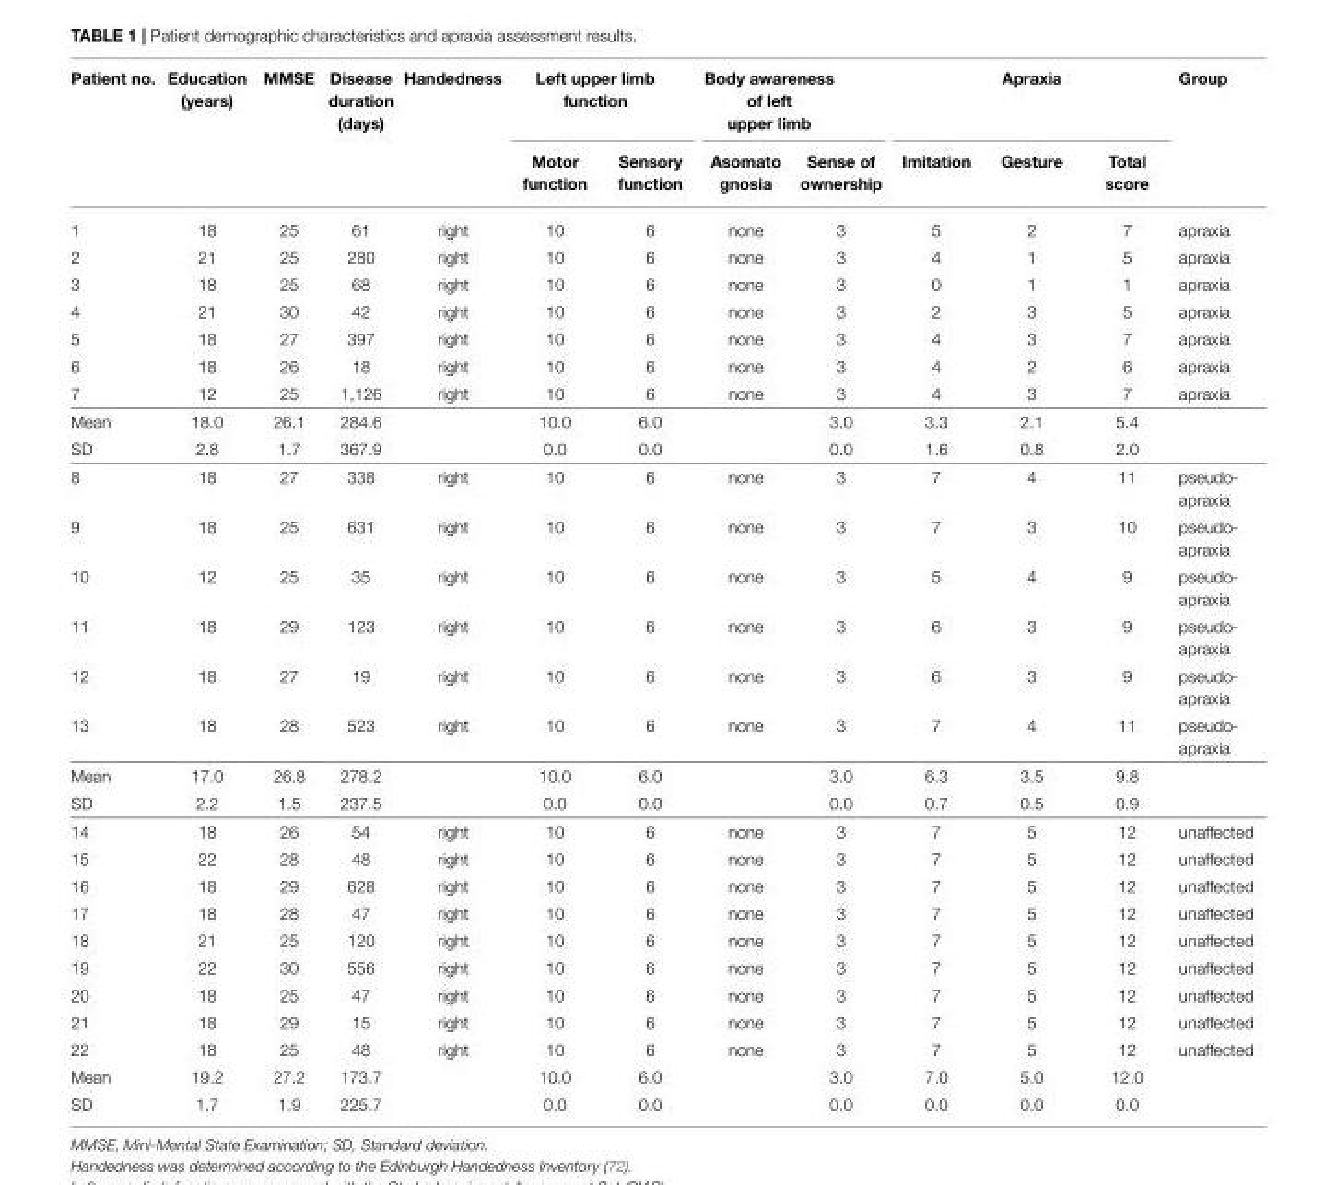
<table><thead><tr><td rowspan="2">Patient no.</td><td rowspan="2">Education (years)</td><td rowspan="2">MMSE</td><td rowspan="2">Disease duration (days)</td><td rowspan="2">Handedness</td><td colspan="2">Left upper limb function</td><td colspan="2">Body awareness of left upper limb</td><td colspan="3">Apraxia</td><td rowspan="2">Group</td></tr><tr><td>Motor function</td><td>Sensory function</td><td>Asomato gnosia</td><td>Sense of ownership</td><td>Imitation</td><td>Gesture</td><td>Total score</td></tr></thead><tbody><tr><td>1</td><td>18</td><td>25</td><td>61</td><td>right</td><td>10</td><td>6</td><td>none</td><td>3</td><td>5</td><td>2</td><td>7</td><td>apraxia</td></tr><tr><td>2</td><td>21</td><td>25</td><td>280</td><td>right</td><td>10</td><td>6</td><td>none</td><td>3</td><td>4</td><td>1</td><td>5</td><td>apraxia</td></tr><tr><td>3</td><td>18</td><td>25</td><td>68</td><td>right</td><td>10</td><td>6</td><td>none</td><td>3</td><td>0</td><td>1</td><td>1</td><td>apraxia</td></tr><tr><td>4</td><td>21</td><td>30</td><td>42</td><td>right</td><td>10</td><td>6</td><td>none</td><td>3</td><td>2</td><td>3</td><td>5</td><td>apraxia</td></tr><tr><td>5</td><td>18</td><td>27</td><td>397</td><td>right</td><td>10</td><td>6</td><td>none</td><td>3</td><td>4</td><td>3</td><td>7</td><td>apraxia</td></tr><tr><td>6</td><td>18</td><td>26</td><td>18</td><td>right</td><td>10</td><td>6</td><td>none</td><td>3</td><td>4</td><td>2</td><td>6</td><td>apraxia</td></tr><tr><td>7</td><td>12</td><td>25</td><td>1,126</td><td>right</td><td>10</td><td>6</td><td>none</td><td>3</td><td>4</td><td>3</td><td>7</td><td>apraxia</td></tr><tr><td>Mean</td><td>18.0</td><td>26.1</td><td>284.6</td><td></td><td>10.0</td><td>6.0</td><td></td><td>3.0</td><td>3.3</td><td>2.1</td><td>5.4</td><td></td></tr><tr><td>SD</td><td>2.8</td><td>1.7</td><td>367.9</td><td></td><td>0.0</td><td>0.0</td><td></td><td>0.0</td><td>1.6</td><td>0.8</td><td>2.0</td><td></td></tr><tr><td>8</td><td>18</td><td>27</td><td>338</td><td>right</td><td>10</td><td>6</td><td>none</td><td>3</td><td>7</td><td>4</td><td>11</td><td>pseudo- apraxia</td></tr><tr><td>9</td><td>18</td><td>25</td><td>631</td><td>right</td><td>10</td><td>6</td><td>none</td><td>3</td><td>7</td><td>3</td><td>10</td><td>pseudo- apraxia</td></tr><tr><td>10</td><td>12</td><td>25</td><td>35</td><td>right</td><td>10</td><td>6</td><td>none</td><td>3</td><td>5</td><td>4</td><td>9</td><td>pseudo- apraxia</td></tr><tr><td>11</td><td>18</td><td>29</td><td>123</td><td>right</td><td>10</td><td>6</td><td>none</td><td>3</td><td>6</td><td>3</td><td>9</td><td>pseudo- apraxia</td></tr><tr><td>12</td><td>18</td><td>27</td><td>19</td><td>right</td><td>10</td><td>6</td><td>none</td><td>3</td><td>6</td><td>3</td><td>9</td><td>pseudo- apraxia</td></tr><tr><td>13</td><td>18</td><td>28</td><td>523</td><td>right</td><td>10</td><td>6</td><td>none</td><td>3</td><td>7</td><td>4</td><td>11</td><td>pseudo- apraxia</td></tr><tr><td>Mean</td><td>17.0</td><td>26.8</td><td>278.2</td><td></td><td>10.0</td><td>6.0</td><td></td><td>3.0</td><td>6.3</td><td>3.5</td><td>9.8</td><td></td></tr><tr><td>SD</td><td>2.2</td><td>1.5</td><td>237.5</td><td></td><td>0.0</td><td>0.0</td><td></td><td>0.0</td><td>0.7</td><td>0.5</td><td>0.9</td><td></td></tr><tr><td>14</td><td>18</td><td>26</td><td>54</td><td>right</td><td>10</td><td>6</td><td>none</td><td>3</td><td>7</td><td>5</td><td>12</td><td>unaffected</td></tr><tr><td>15</td><td>22</td><td>28</td><td>48</td><td>right</td><td>10</td><td>6</td><td>none</td><td>3</td><td>7</td><td>5</td><td>12</td><td>unaffected</td></tr><tr><td>16</td><td>18</td><td>29</td><td>628</td><td>right</td><td>10</td><td>6</td><td>none</td><td>3</td><td>7</td><td>5</td><td>12</td><td>unaffected</td></tr><tr><td>17</td><td>18</td><td>28</td><td>47</td><td>right</td><td>10</td><td>6</td><td>none</td><td>3</td><td>7</td><td>5</td><td>12</td><td>unaffected</td></tr><tr><td>18</td><td>21</td><td>25</td><td>120</td><td>right</td><td>10</td><td>6</td><td>none</td><td>3</td><td>7</td><td>5</td><td>12</td><td>unaffected</td></tr><tr><td>19</td><td>22</td><td>30</td><td>556</td><td>right</td><td>10</td><td>6</td><td>none</td><td>3</td><td>7</td><td>5</td><td>12</td><td>unaffected</td></tr><tr><td>20</td><td>18</td><td>25</td><td>47</td><td>right</td><td>10</td><td>6</td><td>none</td><td>3</td><td>7</td><td>5</td><td>12</td><td>unaffected</td></tr><tr><td>21</td><td>18</td><td>29</td><td>15</td><td>right</td><td>10</td><td>6</td><td>none</td><td>3</td><td>7</td><td>5</td><td>12</td><td>unaffected</td></tr><tr><td>22</td><td>18</td><td>25</td><td>48</td><td>right</td><td>10</td><td>6</td><td>none</td><td>3</td><td>7</td><td>5</td><td>12</td><td>unaffected</td></tr><tr><td>Mean</td><td>19.2</td><td>27.2</td><td>173.7</td><td></td><td>10.0</td><td>6.0</td><td></td><td>3.0</td><td>7.0</td><td>5.0</td><td>12.0</td><td></td></tr><tr><td>SD</td><td>1.7</td><td>1.9</td><td>225.7</td><td></td><td>0.0</td><td>0.0</td><td></td><td>0.0</td><td>0.0</td><td>0.0</td><td>0.0</td><td></td></tr></tbody></table>